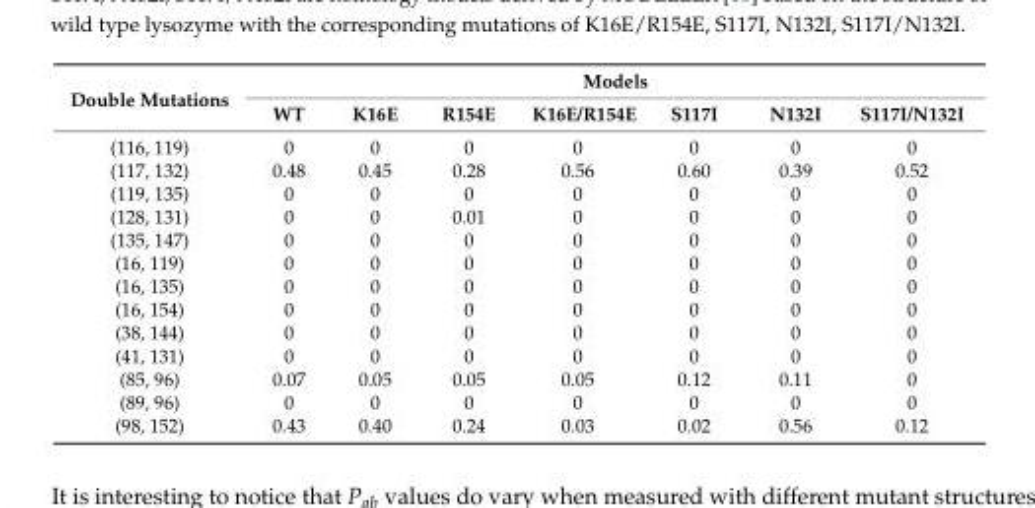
<table><thead><tr><td rowspan="2">Double Mutations</td><td colspan="7">Models</td></tr><tr><td>WT</td><td>K16E</td><td>R154E</td><td>K16E/R154E</td><td>S117I</td><td>N132I</td><td>S117I/N132I</td></tr></thead><tbody><tr><td>(116, 119)</td><td>0</td><td>0</td><td>0</td><td>0</td><td>0</td><td>0</td><td>0</td></tr><tr><td>(117, 132)</td><td>0.48</td><td>0.45</td><td>0.28</td><td>0.56</td><td>0.60</td><td>0.39</td><td>0.52</td></tr><tr><td>(119, 135)</td><td>0</td><td>0</td><td>0</td><td>0</td><td>0</td><td>0</td><td>0</td></tr><tr><td>(128, 131)</td><td>0</td><td>0</td><td>0.01</td><td>0</td><td>0</td><td>0</td><td>0</td></tr><tr><td>(135, 147)</td><td>0</td><td>0</td><td>0</td><td>0</td><td>0</td><td>0</td><td>0</td></tr><tr><td>(16, 119)</td><td>0</td><td>0</td><td>0</td><td>0</td><td>0</td><td>0</td><td>0</td></tr><tr><td>(16, 135)</td><td>0</td><td>0</td><td>0</td><td>0</td><td>0</td><td>0</td><td>0</td></tr><tr><td>(16, 154)</td><td>0</td><td>0</td><td>0</td><td>0</td><td>0</td><td>0</td><td>0</td></tr><tr><td>(38, 144)</td><td>0</td><td>0</td><td>0</td><td>0</td><td>0</td><td>0</td><td>0</td></tr><tr><td>(41, 131)</td><td>0</td><td>0</td><td>0</td><td>0</td><td>0</td><td>0</td><td>0</td></tr><tr><td>(85, 96)</td><td>0.07</td><td>0.05</td><td>0.05</td><td>0.05</td><td>0.12</td><td>0.11</td><td>0</td></tr><tr><td>(89, 96)</td><td>0</td><td>0</td><td>0</td><td>0</td><td>0</td><td>0</td><td>0</td></tr><tr><td>(98, 152)</td><td>0.43</td><td>0.40</td><td>0.24</td><td>0.03</td><td>0.02</td><td>0.56</td><td>0.12</td></tr></tbody></table>